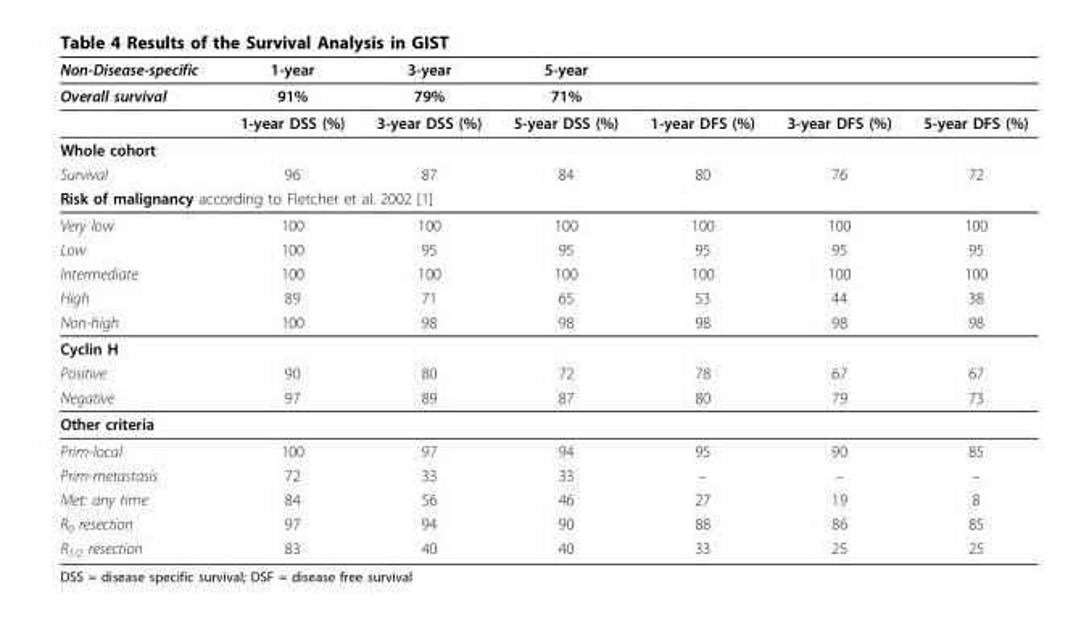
<table><thead><tr><td>Non-Disease-specific</td><td>1-year</td><td>3-year</td><td>5-year</td><td></td><td></td><td></td></tr></thead><tbody><tr><td rowspan="2">Overall survival</td><td>91%</td><td>79%</td><td>71%</td><td></td><td></td><td></td></tr><tr><td>1-year DSS (%)</td><td>3-year DSS (%)</td><td>5-year DSS (%)</td><td>1-year DFS (%)</td><td>3-year DFS (%)</td><td>5-year DFS (%)</td></tr><tr><td colspan="7">Whole cohort</td></tr><tr><td>Survival</td><td>96</td><td>87</td><td>84</td><td>80</td><td>76</td><td>72</td></tr><tr><td colspan="7">Risk of malignancy according to Fletcher et al. 2002 [1]</td></tr><tr><td>Very low</td><td>100</td><td>100</td><td>100</td><td>100</td><td>100</td><td>100</td></tr><tr><td>Low</td><td>100</td><td>95</td><td>95</td><td>95</td><td>95</td><td>95</td></tr><tr><td>Intermediate</td><td>100</td><td>100</td><td>100</td><td>100</td><td>100</td><td>100</td></tr><tr><td>High</td><td>89</td><td>71</td><td>65</td><td>53</td><td>44</td><td>38</td></tr><tr><td>Non-high</td><td>100</td><td>98</td><td>98</td><td>98</td><td>98</td><td>98</td></tr><tr><td colspan="7">Cyclin H</td></tr><tr><td>Positive</td><td>90</td><td>80</td><td>72</td><td>78</td><td>67</td><td>67</td></tr><tr><td>Negative</td><td>97</td><td>89</td><td>87</td><td>80</td><td>79</td><td>73</td></tr><tr><td colspan="7">Other criteria</td></tr><tr><td>Prim-local</td><td>100</td><td>97</td><td>94</td><td>95</td><td>90</td><td>85</td></tr><tr><td>Prim-metastasis</td><td>72</td><td>33</td><td>33</td><td>–</td><td>–</td><td>–</td></tr><tr><td>Met: any time</td><td>84</td><td>56</td><td>46</td><td>27</td><td>19</td><td>8</td></tr><tr><td>R<sub>0</sub> resection</td><td>97</td><td>94</td><td>90</td><td>88</td><td>86</td><td>85</td></tr><tr><td>R<sub>1/2</sub> resection</td><td>83</td><td>40</td><td>40</td><td>33</td><td>25</td><td>25</td></tr></tbody></table>